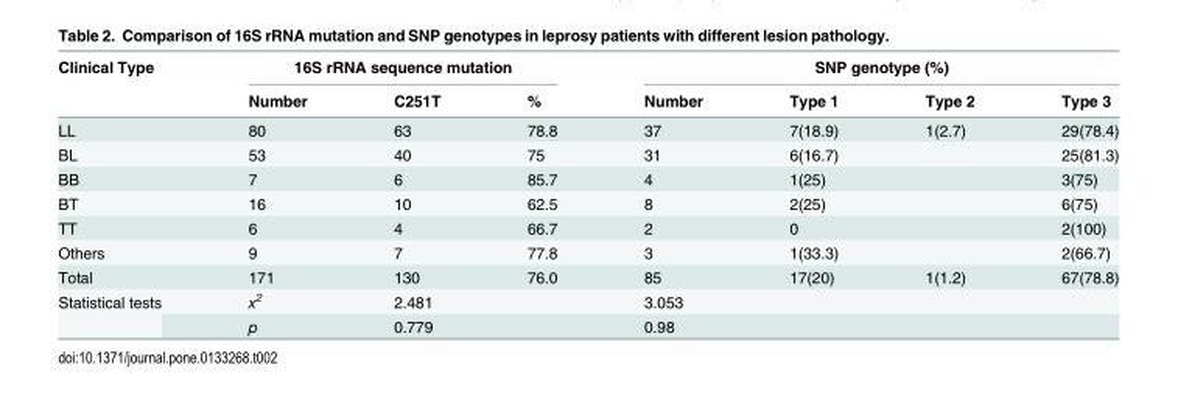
<table><thead><tr><td rowspan="2">Clinical Type</td><td colspan="3">16S rRNA sequence mutation</td><td colspan="4">SNP genotype (%)</td></tr><tr><td>Number</td><td>C251T</td><td>%</td><td>Number</td><td>Type 1</td><td>Type 2</td><td>Type 3</td></tr></thead><tbody><tr><td>LL</td><td>80</td><td>63</td><td>78.8</td><td>37</td><td>7(18.9)</td><td>1(2.7)</td><td>29(78.4)</td></tr><tr><td>BL</td><td>53</td><td>40</td><td>75</td><td>31</td><td>6(16.7)</td><td></td><td>25(81.3)</td></tr><tr><td>BB</td><td>7</td><td>6</td><td>85.7</td><td>4</td><td>1(25)</td><td></td><td>3(75)</td></tr><tr><td>BT</td><td>16</td><td>10</td><td>62.5</td><td>8</td><td>2(25)</td><td></td><td>6(75)</td></tr><tr><td>TT</td><td>6</td><td>4</td><td>66.7</td><td>2</td><td>0</td><td></td><td>2(100)</td></tr><tr><td>Others</td><td>9</td><td>7</td><td>77.8</td><td>3</td><td>1(33.3)</td><td></td><td>2(66.7)</td></tr><tr><td>Total</td><td>171</td><td>130</td><td>76.0</td><td>85</td><td>17(20)</td><td>1(1.2)</td><td>67(78.8)</td></tr><tr><td rowspan="2">Statistical tests</td><td>x<sup>2</sup></td><td colspan="2">2.481</td><td colspan="4">3.053</td></tr><tr><td>p</td><td colspan="2">0.779</td><td colspan="4">0.98</td></tr></tbody></table>